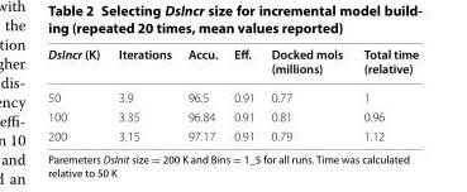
<table><thead><tr><td>DsIncr (K)</td><td>Iterations</td><td>Accu.</td><td>Eff.</td><td>Docked mols (millions)</td><td>Total time (relative)</td></tr></thead><tbody><tr><td>50</td><td>3.9</td><td>96.5</td><td>0.91</td><td>0.77</td><td>1</td></tr><tr><td>100</td><td>3.35</td><td>96.84</td><td>0.91</td><td>0.81</td><td>0.96</td></tr><tr><td>200</td><td>3.15</td><td>97.17</td><td>0.91</td><td>0.79</td><td>1.12</td></tr></tbody></table>